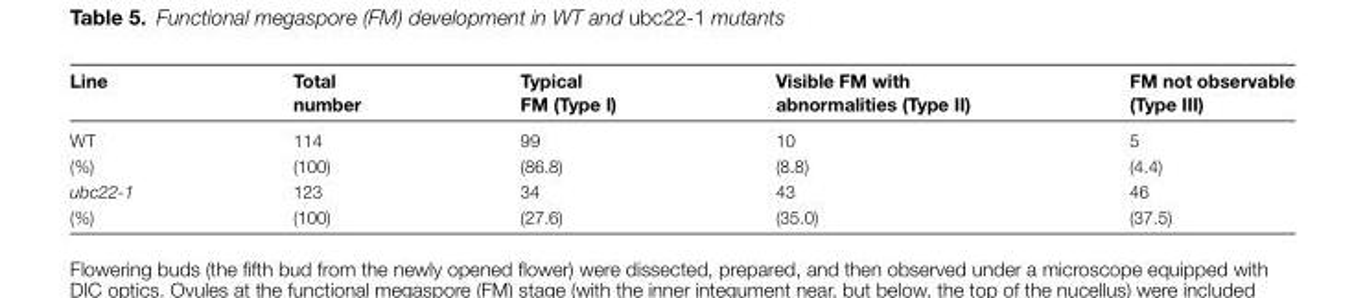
<table><thead><tr><td>Line</td><td>Total number</td><td>Typical FM (Type I)</td><td>Visible FM with abnormalities (Type II)</td><td>FM not observable (Type III)</td></tr></thead><tbody><tr><td>WT (%)</td><td>114 (100)</td><td>99 (86.8)</td><td>10 (8.8)</td><td>5 (4.4)</td></tr><tr><td>ubc22-1 (%)</td><td>123 (100)</td><td>34 (27.6)</td><td>43 (35.0)</td><td>46 (37.5)</td></tr></tbody></table>